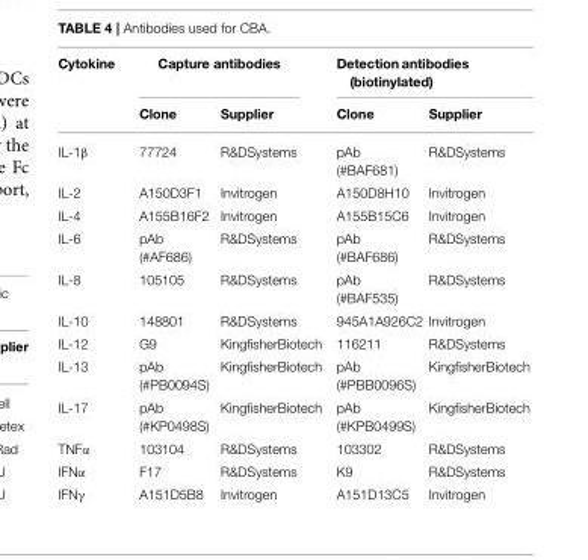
<table><thead><tr><td rowspan="2">Cytokine</td><td colspan="2">Capture antibodies</td><td colspan="2">Detection antibodies (biotinylated)</td></tr><tr><td>Clone</td><td>Supplier</td><td>Clone</td><td>Supplier</td></tr></thead><tbody><tr><td>IL-1β</td><td>77724</td><td>R&amp;DSystems</td><td>pAb (#BAF681)</td><td>R&amp;DSystems</td></tr><tr><td>IL-2</td><td>A150D3F1</td><td>Invitrogen</td><td>A150D8H10</td><td>Invitrogen</td></tr><tr><td>IL-4</td><td>A155B16F2</td><td>Invitrogen</td><td>A155B15C6</td><td>Invitrogen</td></tr><tr><td>IL-6</td><td>pAb (#AF686)</td><td>R&amp;DSystems</td><td>pAb (#BAF686)</td><td>R&amp;DSystems</td></tr><tr><td>IL-8</td><td>105105</td><td>R&amp;DSystems</td><td>pAb (#BAF535)</td><td>R&amp;DSystems</td></tr><tr><td>IL-10</td><td>148801</td><td>R&amp;DSystems</td><td>945A1A926C2</td><td>Invitrogen</td></tr><tr><td>IL-12</td><td>G9</td><td>KingfisherBiotech</td><td>116211</td><td>R&amp;DSystems</td></tr><tr><td>IL-13</td><td>pAb (#PB0094S)</td><td>KingfisherBiotech</td><td>pAb (#PBB0096S)</td><td>KingfisherBiotech</td></tr><tr><td>IL-17</td><td>pAb (#KP0498S)</td><td>KingfisherBiotech</td><td>pAb (#KPB0499S)</td><td>KingfisherBiotech</td></tr><tr><td>TNFα</td><td>103104</td><td>R&amp;DSystems</td><td>103302</td><td>R&amp;DSystems</td></tr><tr><td>IFNα</td><td>F17</td><td>R&amp;DSystems</td><td>K9</td><td>R&amp;DSystems</td></tr><tr><td>IFNγ</td><td>A151D5B8</td><td>Invitrogen</td><td>A151D13C5</td><td>Invitrogen</td></tr></tbody></table>